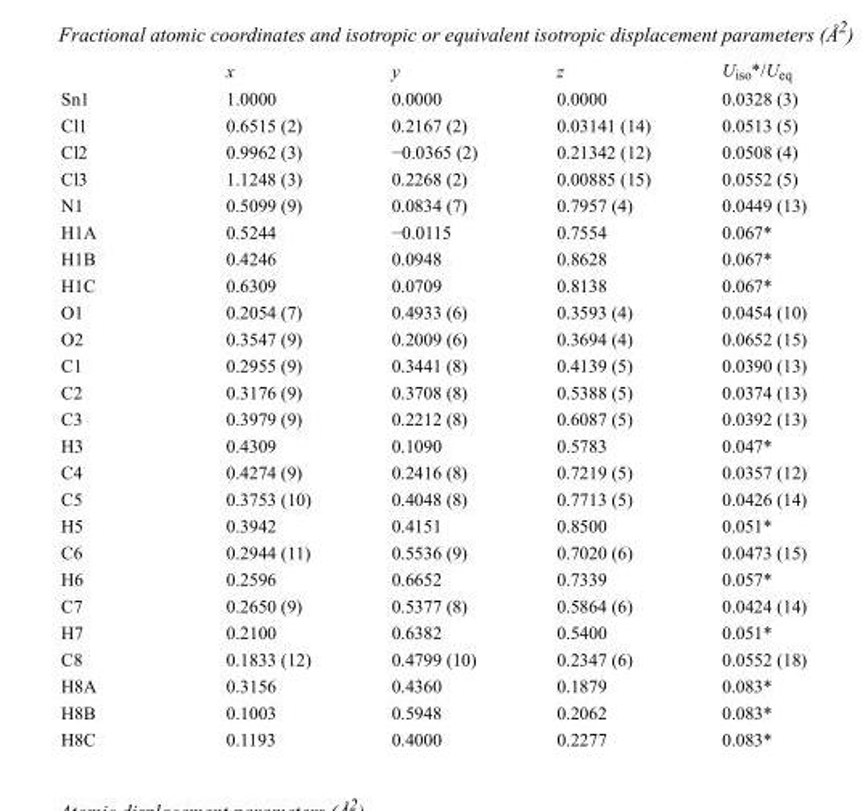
<table><thead><tr><td></td><td>x</td><td>y</td><td>z</td><td>U<sub>iso</sub>*/U<sub>eq</sub></td></tr></thead><tbody><tr><td>Sn1</td><td>1.0000</td><td>0.0000</td><td>0.0000</td><td>0.0328 (3)</td></tr><tr><td>Cl1</td><td>0.6515 (2)</td><td>0.2167 (2)</td><td>0.03141 (14)</td><td>0.0513 (5)</td></tr><tr><td>Cl2</td><td>0.9962 (3)</td><td>−0.0365 (2)</td><td>0.21342 (12)</td><td>0.0508 (4)</td></tr><tr><td>Cl3</td><td>1.1248 (3)</td><td>0.2268 (2)</td><td>0.00885 (15)</td><td>0.0552 (5)</td></tr><tr><td>N1</td><td>0.5099 (9)</td><td>0.0834 (7)</td><td>0.7957 (4)</td><td>0.0449 (13)</td></tr><tr><td>H1A</td><td>0.5244</td><td>−0.0115</td><td>0.7554</td><td>0.067*</td></tr><tr><td>H1B</td><td>0.4246</td><td>0.0948</td><td>0.8628</td><td>0.067*</td></tr><tr><td>H1C</td><td>0.6309</td><td>0.0709</td><td>0.8138</td><td>0.067*</td></tr><tr><td>O1</td><td>0.2054 (7)</td><td>0.4933 (6)</td><td>0.3593 (4)</td><td>0.0454 (10)</td></tr><tr><td>O2</td><td>0.3547 (9)</td><td>0.2009 (6)</td><td>0.3694 (4)</td><td>0.0652 (15)</td></tr><tr><td>C1</td><td>0.2955 (9)</td><td>0.3441 (8)</td><td>0.4139 (5)</td><td>0.0390 (13)</td></tr><tr><td>C2</td><td>0.3176 (9)</td><td>0.3708 (8)</td><td>0.5388 (5)</td><td>0.0374 (13)</td></tr><tr><td>C3</td><td>0.3979 (9)</td><td>0.2212 (8)</td><td>0.6087 (5)</td><td>0.0392 (13)</td></tr><tr><td>H3</td><td>0.4309</td><td>0.1090</td><td>0.5783</td><td>0.047*</td></tr><tr><td>C4</td><td>0.4274 (9)</td><td>0.2416 (8)</td><td>0.7219 (5)</td><td>0.0357 (12)</td></tr><tr><td>C5</td><td>0.3753 (10)</td><td>0.4048 (8)</td><td>0.7713 (5)</td><td>0.0426 (14)</td></tr><tr><td>H5</td><td>0.3942</td><td>0.4151</td><td>0.8500</td><td>0.051*</td></tr><tr><td>C6</td><td>0.2944 (11)</td><td>0.5536 (9)</td><td>0.7020 (6)</td><td>0.0473 (15)</td></tr><tr><td>H6</td><td>0.2596</td><td>0.6652</td><td>0.7339</td><td>0.057*</td></tr><tr><td>C7</td><td>0.2650 (9)</td><td>0.5377 (8)</td><td>0.5864 (6)</td><td>0.0424 (14)</td></tr><tr><td>H7</td><td>0.2100</td><td>0.6382</td><td>0.5400</td><td>0.051*</td></tr><tr><td>C8</td><td>0.1833 (12)</td><td>0.4799 (10)</td><td>0.2347 (6)</td><td>0.0552 (18)</td></tr><tr><td>H8A</td><td>0.3156</td><td>0.4360</td><td>0.1879</td><td>0.083*</td></tr><tr><td>H8B</td><td>0.1003</td><td>0.5948</td><td>0.2062</td><td>0.083*</td></tr><tr><td>H8C</td><td>0.1193</td><td>0.4000</td><td>0.2277</td><td>0.083*</td></tr></tbody></table>